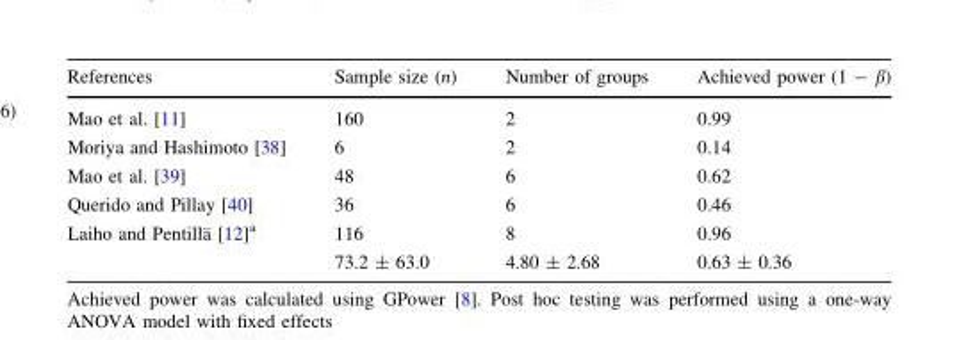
<table><thead><tr><td>References</td><td>Sample size (n)</td><td>Number of groups</td><td>Achieved power (1 - β)</td></tr></thead><tbody><tr><td>Mao et al. [11]</td><td>160</td><td>2</td><td>0.99</td></tr><tr><td>Moriya and Hashimoto [38]</td><td>6</td><td>2</td><td>0.14</td></tr><tr><td>Mao et al. [39]</td><td>48</td><td>6</td><td>0.62</td></tr><tr><td>Querido and Pillay [40]</td><td>36</td><td>6</td><td>0.46</td></tr><tr><td rowspan="2">Laiho and Pentilla¨ [12]a</td><td>116</td><td>8</td><td>0.96</td></tr><tr><td>73.2 ± 63.0</td><td>4.80 ± 2.68</td><td>0.63 ± 0.36</td></tr></tbody></table>